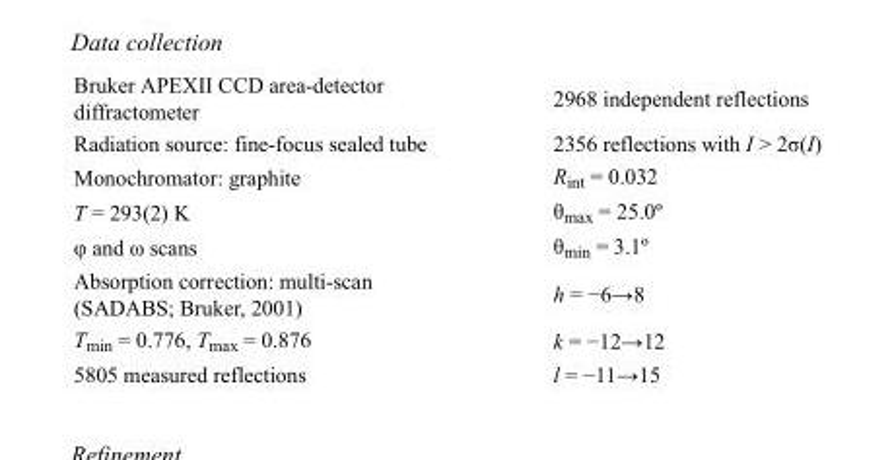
<table><tbody><tr><td>Bruker APEXII CCD area-detector diffractometer</td><td>2968 independent reflections</td></tr><tr><td>Radiation source: fine-focus sealed tube</td><td>2356 reflections with I &gt; 2σ(I)</td></tr><tr><td>Monochromator: graphite</td><td>Rint = 0.032</td></tr><tr><td>T = 293(2) K</td><td>θmax = 25.0º</td></tr><tr><td>φ and ω scans</td><td>θmin = 3.1º</td></tr><tr><td>Absorption correction: multi-scan (SADABS; Bruker, 2001)</td><td>h = −6→8</td></tr><tr><td>Tmin = 0.776, Tmax = 0.876</td><td>k = −12→12</td></tr><tr><td>5805 measured reflections</td><td>l = −11→15</td></tr></tbody></table>